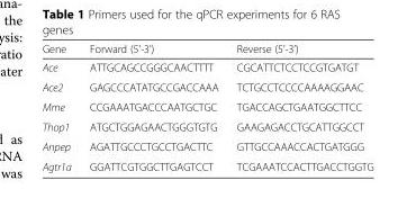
<table><thead><tr><td>Gene</td><td>Forward (5’-3’)</td><td>Reverse (5’-3’)</td></tr></thead><tbody><tr><td>Ace</td><td>ATTGCAGCCGGGCAACTTTT</td><td>CGCATTCTCCTCCGTGATGT</td></tr><tr><td>Ace2</td><td>GAGCCCATATGCCGACCAAA</td><td>TCTGCCTCCCCAAAAGGAAC</td></tr><tr><td>Mme</td><td>CCGAAATGACCCAATGCTGC</td><td>TGACCAGCTGAATGGCTTCC</td></tr><tr><td>Thop1</td><td>ATGCTGGAGAACTGGGTGTG</td><td>GAAGAGACCTGCATTGGCCT</td></tr><tr><td>Anpep</td><td>AGATTGCCCTGCCTGACTTC</td><td>GTTGCCAAACCACTGATGGG</td></tr><tr><td>Agtr1a</td><td>GGATTCGTGGCTTGAGTCCT</td><td>TCGAAATCCACTTGACCTGGTG</td></tr></tbody></table>